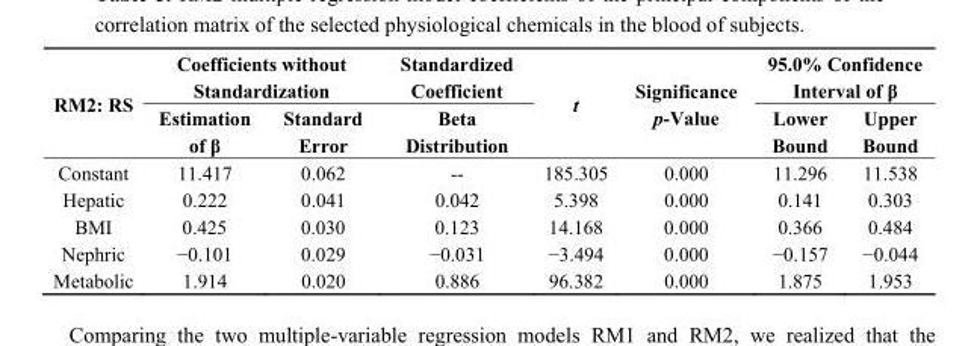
<table><thead><tr><td rowspan="2">RM2: RS</td><td colspan="2">Coefficients without Standardization</td><td rowspan="2">Standardized Coefficient Beta Distribution</td><td rowspan="2">t</td><td rowspan="2">Significance p-Value</td><td colspan="2">95.0% Confidence Interval of β</td></tr><tr><td>Estimation of β</td><td>Standard Error</td><td>Lower Bound</td><td>Upper Bound</td></tr></thead><tbody><tr><td>Constant</td><td>11.417</td><td>0.062</td><td>--</td><td>185.305</td><td>0.000</td><td>11.296</td><td>11.538</td></tr><tr><td>Hepatic</td><td>0.222</td><td>0.041</td><td>0.042</td><td>5.398</td><td>0.000</td><td>0.141</td><td>0.303</td></tr><tr><td>BMI</td><td>0.425</td><td>0.030</td><td>0.123</td><td>14.168</td><td>0.000</td><td>0.366</td><td>0.484</td></tr><tr><td>Nephric</td><td>−0.101</td><td>0.029</td><td>−0.031</td><td>−3.494</td><td>0.000</td><td>−0.157</td><td>−0.044</td></tr><tr><td>Metabolic</td><td>1.914</td><td>0.020</td><td>0.886</td><td>96.382</td><td>0.000</td><td>1.875</td><td>1.953</td></tr></tbody></table>